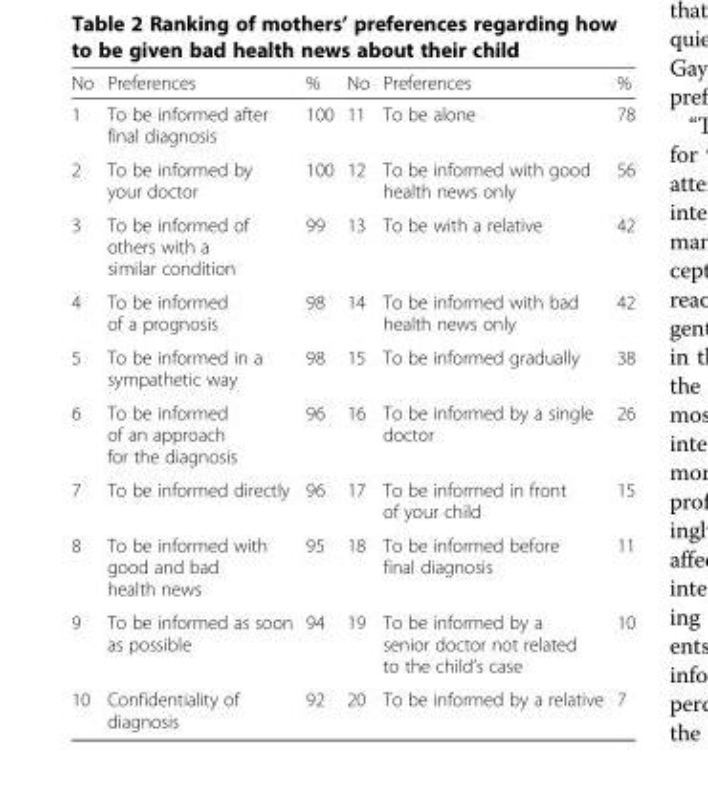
<table><thead><tr><td>No</td><td>Preferences</td><td>%</td><td>No</td><td>Preferences</td><td>%</td></tr></thead><tbody><tr><td>1</td><td>To be informed after final diagnosis</td><td>100</td><td>11</td><td>To be alone</td><td>78</td></tr><tr><td>2</td><td>To be informed by your doctor</td><td>100</td><td>12</td><td>To be informed with good health news only</td><td>56</td></tr><tr><td>3</td><td>To be informed of others with a similar condition</td><td>99</td><td>13</td><td>To be with a relative</td><td>42</td></tr><tr><td>4</td><td>To be informed of a prognosis</td><td>98</td><td>14</td><td>To be informed with bad health news only</td><td>42</td></tr><tr><td>5</td><td>To be informed in a sympathetic way</td><td>98</td><td>15</td><td>To be informed gradually</td><td>38</td></tr><tr><td>6</td><td>To be informed of an approach for the diagnosis</td><td>96</td><td>16</td><td>To be informed by a single doctor</td><td>26</td></tr><tr><td>7</td><td>To be informed directly</td><td>96</td><td>17</td><td>To be informed in front of your child</td><td>15</td></tr><tr><td>8</td><td>To be informed with good and bad health news</td><td>95</td><td>18</td><td>To be informed before final diagnosis</td><td>11</td></tr><tr><td>9</td><td>To be informed as soon as possible</td><td>94</td><td>19</td><td>To be informed by a senior doctor not related to the child’s case</td><td>10</td></tr><tr><td>10</td><td>Confidentiality of diagnosis</td><td>92</td><td>20</td><td>To be informed by a relative</td><td>7</td></tr></tbody></table>